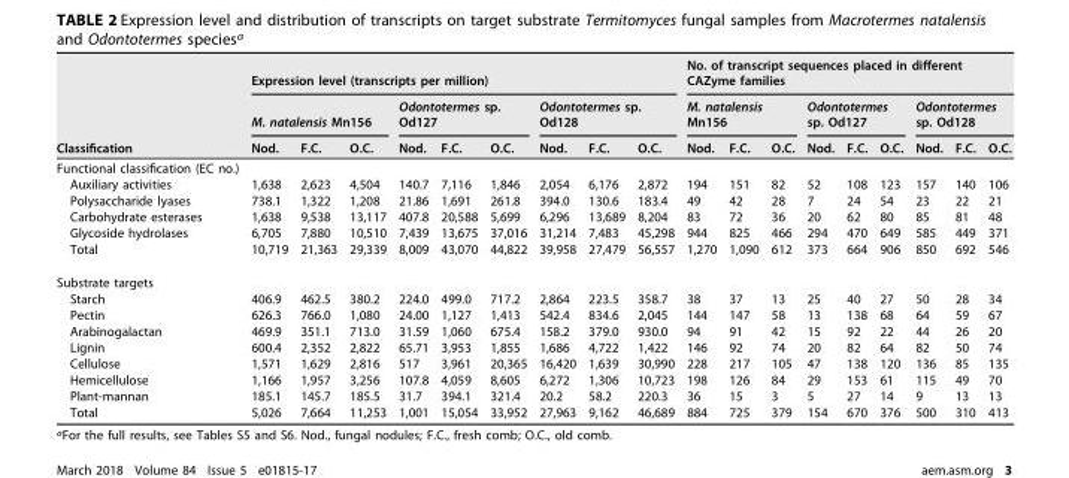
<table><thead><tr><td rowspan="3">Classification</td><td colspan="9">Expression level (transcripts per million)</td><td colspan="9">No. of transcript sequences placed in different CAZyme families</td></tr><tr><td colspan="3">M. natalensis Mn156</td><td colspan="3">Odontotermes sp. Od127</td><td colspan="3">Odontotermes sp. Od128</td><td colspan="3">M. natalensis Mn156</td><td colspan="3">Odontotermes sp. Od127</td><td colspan="3">Odontotermes sp. Od128</td></tr><tr><td>Nod.</td><td>F.C.</td><td>O.C.</td><td>Nod.</td><td>F.C.</td><td>O.C.</td><td>Nod.</td><td>F.C.</td><td>O.C.</td><td>Nod.</td><td>F.C.</td><td>O.C.</td><td>Nod.</td><td>F.C.</td><td>O.C.</td><td>Nod.</td><td>F.C.</td><td>O.C.</td></tr></thead><tbody><tr><td colspan="19">Functional classification (EC no.)</td></tr><tr><td>Auxiliary activities</td><td>1,638</td><td>2,623</td><td>4,504</td><td>140.7</td><td>7,116</td><td>1,846</td><td>2,054</td><td>6,176</td><td>2,872</td><td>194</td><td>151</td><td>82</td><td>52</td><td>108</td><td>123</td><td>157</td><td>140</td><td>106</td></tr><tr><td>Polysaccharide lyases</td><td>738.1</td><td>1,322</td><td>1,208</td><td>21.86</td><td>1,691</td><td>261.8</td><td>394.0</td><td>130.6</td><td>183.4</td><td>49</td><td>42</td><td>28</td><td>7</td><td>24</td><td>54</td><td>23</td><td>22</td><td>21</td></tr><tr><td>Carbohydrate esterases</td><td>1,638</td><td>9,538</td><td>13,117</td><td>407.8</td><td>20,588</td><td>5,699</td><td>6,296</td><td>13,689</td><td>8,204</td><td>83</td><td>72</td><td>36</td><td>20</td><td>62</td><td>80</td><td>85</td><td>81</td><td>48</td></tr><tr><td>Glycoside hydrolases</td><td>6,705</td><td>7,880</td><td>10,510</td><td>7,439</td><td>13,675</td><td>37,016</td><td>31,214</td><td>7,483</td><td>45,298</td><td>944</td><td>825</td><td>466</td><td>294</td><td>470</td><td>649</td><td>585</td><td>449</td><td>371</td></tr><tr><td>Total</td><td>10,719</td><td>21,363</td><td>29,339</td><td>8,009</td><td>43,070</td><td>44,822</td><td>39,958</td><td>27,479</td><td>56,557</td><td>1,270</td><td>1,090</td><td>612</td><td>373</td><td>664</td><td>906</td><td>850</td><td>692</td><td>546</td></tr><tr><td colspan="19">Substrate targets</td></tr><tr><td>Starch</td><td>406.9</td><td>462.5</td><td>380.2</td><td>224.0</td><td>499.0</td><td>717.2</td><td>2,864</td><td>223.5</td><td>358.7</td><td>38</td><td>37</td><td>13</td><td>25</td><td>40</td><td>27</td><td>50</td><td>28</td><td>34</td></tr><tr><td>Pectin</td><td>626.3</td><td>766.0</td><td>1,080</td><td>24.00</td><td>1,127</td><td>1,413</td><td>542.4</td><td>834.6</td><td>2,045</td><td>144</td><td>147</td><td>58</td><td>13</td><td>138</td><td>68</td><td>64</td><td>59</td><td>67</td></tr><tr><td>Arabinogalactan</td><td>469.9</td><td>351.1</td><td>713.0</td><td>31.59</td><td>1,060</td><td>675.4</td><td>158.2</td><td>379.0</td><td>930.0</td><td>94</td><td>91</td><td>42</td><td>15</td><td>92</td><td>22</td><td>44</td><td>26</td><td>20</td></tr><tr><td>Lignin</td><td>600.4</td><td>2,352</td><td>2,822</td><td>65.71</td><td>3,953</td><td>1,855</td><td>1,686</td><td>4,722</td><td>1,422</td><td>146</td><td>92</td><td>74</td><td>20</td><td>82</td><td>64</td><td>82</td><td>50</td><td>74</td></tr><tr><td>Cellulose</td><td>1,571</td><td>1,629</td><td>2,816</td><td>517</td><td>3,961</td><td>20,365</td><td>16,420</td><td>1,639</td><td>30,990</td><td>228</td><td>217</td><td>105</td><td>47</td><td>138</td><td>120</td><td>136</td><td>85</td><td>135</td></tr><tr><td>Hemicellulose</td><td>1,166</td><td>1,957</td><td>3,256</td><td>107.8</td><td>4,059</td><td>8,605</td><td>6,272</td><td>1,306</td><td>10,723</td><td>198</td><td>126</td><td>84</td><td>29</td><td>153</td><td>61</td><td>115</td><td>49</td><td>70</td></tr><tr><td>Plant-mannan</td><td>185.1</td><td>145.7</td><td>185.5</td><td>31.7</td><td>394.1</td><td>321.4</td><td>20.2</td><td>58.2</td><td>220.3</td><td>36</td><td>15</td><td>3</td><td>5</td><td>27</td><td>14</td><td>9</td><td>13</td><td>13</td></tr><tr><td>Total</td><td>5,026</td><td>7,664</td><td>11,253</td><td>1,001</td><td>15,054</td><td>33,952</td><td>27,963</td><td>9,162</td><td>46,689</td><td>884</td><td>725</td><td>379</td><td>154</td><td>670</td><td>376</td><td>500</td><td>310</td><td>413</td></tr></tbody></table>